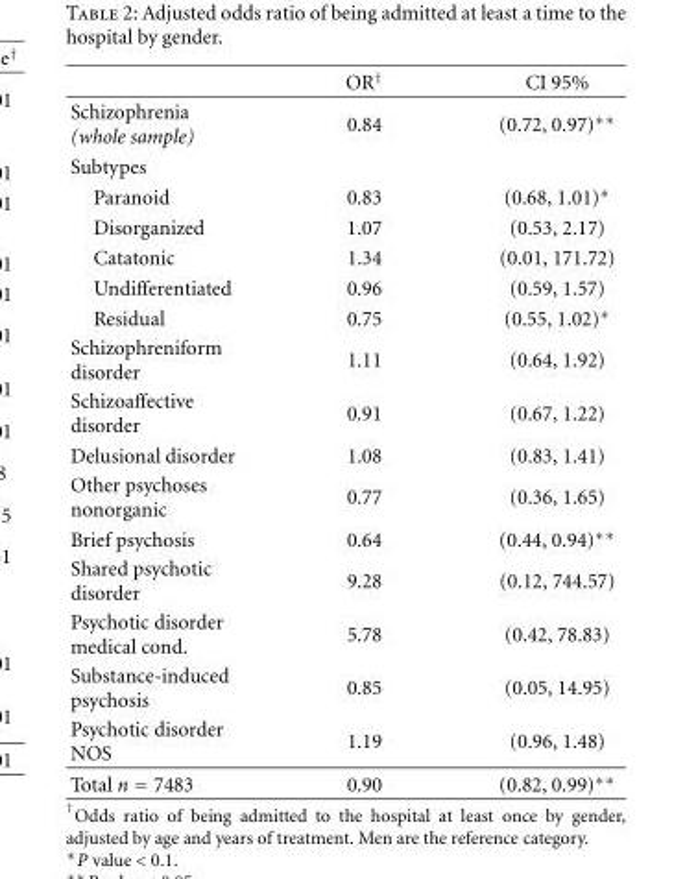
<table><thead><tr><td></td><td>OR<sup>†</sup></td><td>CI 95%</td></tr></thead><tbody><tr><td>Schizophrenia (whole sample)</td><td>0.84</td><td>(0.72, 0.97)∗∗</td></tr><tr><td colspan="3">Subtypes</td></tr><tr><td>Paranoid</td><td>0.83</td><td>(0.68, 1.01)∗</td></tr><tr><td>Disorganized</td><td>1.07</td><td>(0.53, 2.17)</td></tr><tr><td>Catatonic</td><td>1.34</td><td>(0.01, 171.72)</td></tr><tr><td>Undifferentiated</td><td>0.96</td><td>(0.59, 1.57)</td></tr><tr><td>Residual</td><td>0.75</td><td>(0.55, 1.02)∗</td></tr><tr><td>Schizophreniform disorder</td><td>1.11</td><td>(0.64, 1.92)</td></tr><tr><td>Schizoaffective disorder</td><td>0.91</td><td>(0.67, 1.22)</td></tr><tr><td>Delusional disorder</td><td>1.08</td><td>(0.83, 1.41)</td></tr><tr><td>Other psychoses nonorganic</td><td>0.77</td><td>(0.36, 1.65)</td></tr><tr><td>Brief psychosis</td><td>0.64</td><td>(0.44, 0.94)∗∗</td></tr><tr><td>Shared psychotic disorder</td><td>9.28</td><td>(0.12, 744.57)</td></tr><tr><td>Psychotic disorder medical cond.</td><td>5.78</td><td>(0.42, 78.83)</td></tr><tr><td>Substance-induced psychosis</td><td>0.85</td><td>(0.05, 14.95)</td></tr><tr><td>Psychotic disorder NOS</td><td>1.19</td><td>(0.96, 1.48)</td></tr><tr><td>Total n = 7483</td><td>0.90</td><td>(0.82, 0.99)∗∗</td></tr></tbody></table>